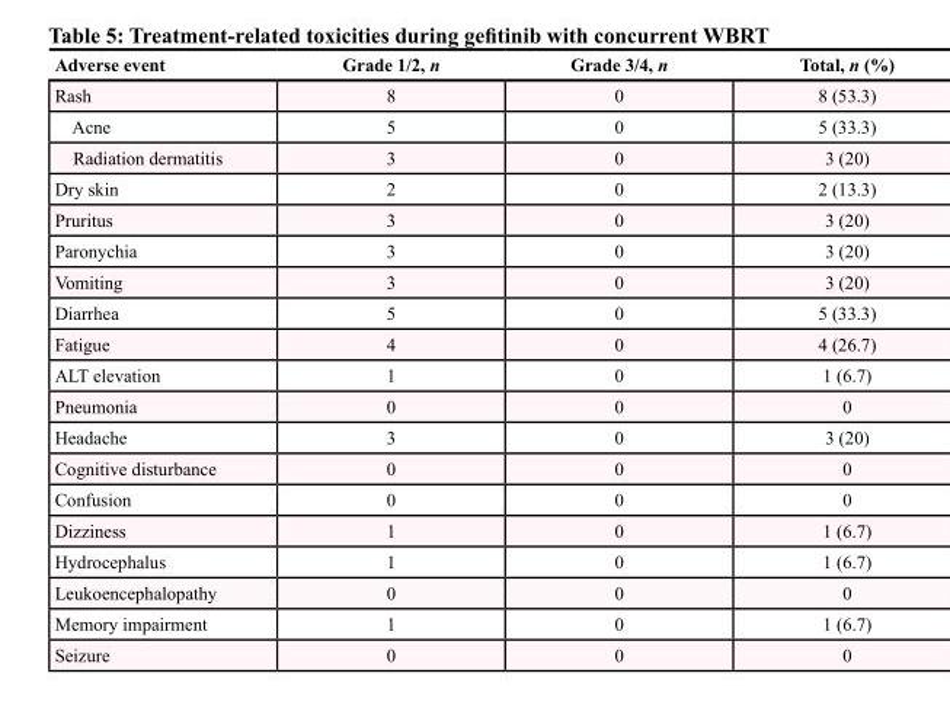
<table><thead><tr><td>Adverse event</td><td>Grade 1/2, n</td><td>Grade 3/4, n</td><td>Total, n (%)</td></tr></thead><tbody><tr><td>Rash</td><td>8</td><td>0</td><td>8 (53.3)</td></tr><tr><td>Acne</td><td>5</td><td>0</td><td>5 (33.3)</td></tr><tr><td>Radiation dermatitis</td><td>3</td><td>0</td><td>3 (20)</td></tr><tr><td>Dry skin</td><td>2</td><td>0</td><td>2 (13.3)</td></tr><tr><td>Pruritus</td><td>3</td><td>0</td><td>3 (20)</td></tr><tr><td>Paronychia</td><td>3</td><td>0</td><td>3 (20)</td></tr><tr><td>Vomiting</td><td>3</td><td>0</td><td>3 (20)</td></tr><tr><td>Diarrhea</td><td>5</td><td>0</td><td>5 (33.3)</td></tr><tr><td>Fatigue</td><td>4</td><td>0</td><td>4 (26.7)</td></tr><tr><td>ALT elevation</td><td>1</td><td>0</td><td>1 (6.7)</td></tr><tr><td>Pneumonia</td><td>0</td><td>0</td><td>0</td></tr><tr><td>Headache</td><td>3</td><td>0</td><td>3 (20)</td></tr><tr><td>Cognitive disturbance</td><td>0</td><td>0</td><td>0</td></tr><tr><td>Confusion</td><td>0</td><td>0</td><td>0</td></tr><tr><td>Dizziness</td><td>1</td><td>0</td><td>1 (6.7)</td></tr><tr><td>Hydrocephalus</td><td>1</td><td>0</td><td>1 (6.7)</td></tr><tr><td>Leukoencephalopathy</td><td>0</td><td>0</td><td>0</td></tr><tr><td>Memory impairment</td><td>1</td><td>0</td><td>1 (6.7)</td></tr><tr><td>Seizure</td><td>0</td><td>0</td><td>0</td></tr></tbody></table>